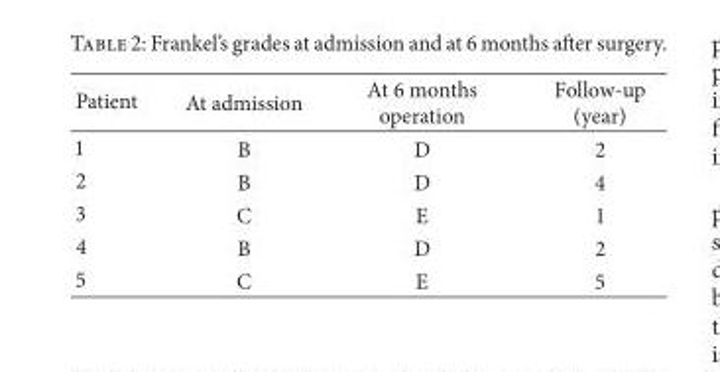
<table><thead><tr><td>Patient</td><td>At admission</td><td>At 6 months operation</td><td>Follow-up (year)</td></tr></thead><tbody><tr><td>1</td><td>B</td><td>D</td><td>2</td></tr><tr><td>2</td><td>B</td><td>D</td><td>4</td></tr><tr><td>3</td><td>C</td><td>E</td><td>1</td></tr><tr><td>4</td><td>B</td><td>D</td><td>2</td></tr><tr><td>5</td><td>C</td><td>E</td><td>5</td></tr></tbody></table>